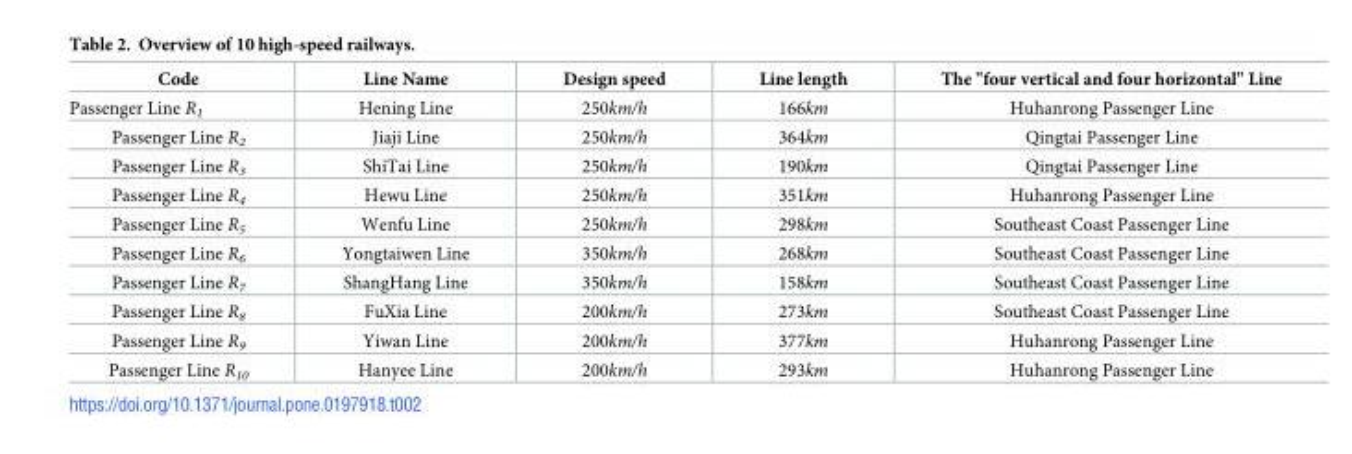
<table><thead><tr><td>Code</td><td>Line Name</td><td>Design speed</td><td>Line length</td><td>The &quot;four vertical and four horizontal&quot; Line</td></tr></thead><tbody><tr><td>Passenger Line R<sub>1</sub></td><td>Hening Line</td><td>250km/h</td><td>166km</td><td>Huhanrong Passenger Line</td></tr><tr><td>Passenger Line R<sub>2</sub></td><td>Jiaji Line</td><td>250km/h</td><td>364km</td><td>Qingtai Passenger Line</td></tr><tr><td>Passenger Line R<sub>3</sub></td><td>ShiTai Line</td><td>250km/h</td><td>190km</td><td>Qingtai Passenger Line</td></tr><tr><td>Passenger Line R<sub>4</sub></td><td>Hewu Line</td><td>250km/h</td><td>351km</td><td>Huhanrong Passenger Line</td></tr><tr><td>Passenger Line R<sub>5</sub></td><td>Wenfu Line</td><td>250km/h</td><td>298km</td><td>Southeast Coast Passenger Line</td></tr><tr><td>Passenger Line R<sub>6</sub></td><td>Yongtaiwen Line</td><td>350km/h</td><td>268km</td><td>Southeast Coast Passenger Line</td></tr><tr><td>Passenger Line R<sub>7</sub></td><td>ShangHang Line</td><td>350km/h</td><td>158km</td><td>Southeast Coast Passenger Line</td></tr><tr><td>Passenger Line R<sub>8</sub></td><td>FuXia Line</td><td>200km/h</td><td>273km</td><td>Southeast Coast Passenger Line</td></tr><tr><td>Passenger Line R<sub>9</sub></td><td>Yiwan Line</td><td>200km/h</td><td>377km</td><td>Huhanrong Passenger Line</td></tr><tr><td>Passenger Line R<sub>10</sub></td><td>Hanyee Line</td><td>200km/h</td><td>293km</td><td>Huhanrong Passenger Line</td></tr></tbody></table>